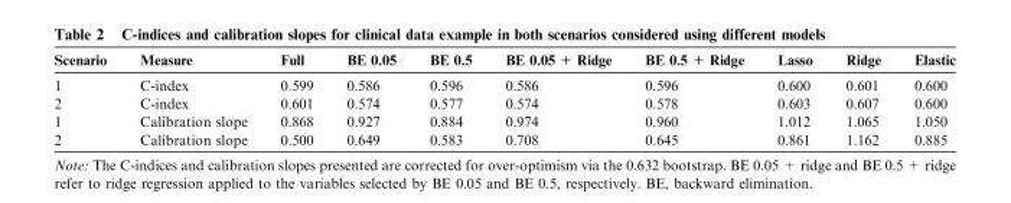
<table><thead><tr><td>Scenario</td><td>Measure</td><td>Full</td><td>BE 0.05</td><td>BE 0.5</td><td>BE 0.05 + Ridge</td><td>BE 0.5 + Ridge</td><td>Lasso</td><td>Ridge</td><td>Elastic</td></tr></thead><tbody><tr><td>1</td><td>C-index</td><td>0.599</td><td>0.586</td><td>0.596</td><td>0.586</td><td>0.596</td><td>0.600</td><td>0.601</td><td>0.600</td></tr><tr><td>2</td><td>C-index</td><td>0.601</td><td>0.574</td><td>0.577</td><td>0.574</td><td>0.578</td><td>0.603</td><td>0.607</td><td>0.600</td></tr><tr><td>1</td><td>Calibration slope</td><td>0.868</td><td>0.927</td><td>0.884</td><td>0.974</td><td>0.960</td><td>1.012</td><td>1.065</td><td>1.050</td></tr><tr><td>2</td><td>Calibration slope</td><td>0.500</td><td>0.649</td><td>0.583</td><td>0.708</td><td>0.645</td><td>0.861</td><td>1.162</td><td>0.885</td></tr></tbody></table>